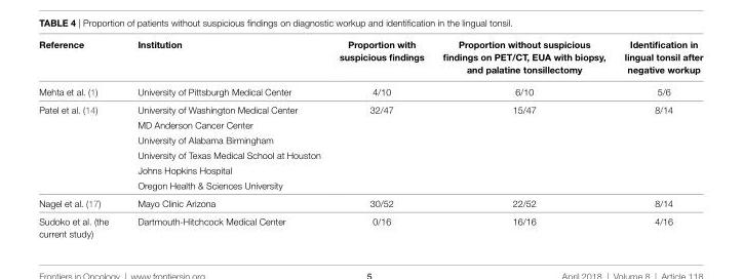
<table><thead><tr><td>reference</td><td>institution</td><td>Proportion with suspicious findings</td><td>Proportion without suspicious findings on PeT/cT, eUa with biopsy, and palatine tonsillectomy</td><td>identification in lingual tonsil after negative workup</td></tr></thead><tbody><tr><td>Mehta et al. (1)</td><td>University of Pittsburgh Medical Center</td><td>4/10</td><td>6/10</td><td>5/6</td></tr><tr><td rowspan="6">Patel et al. (14)</td><td>University of Washington Medical Center</td><td>32/47</td><td>15/47</td><td>8/14</td></tr><tr><td>MD Anderson Cancer Center</td><td></td><td></td><td></td></tr><tr><td>University of Alabama Birmingham</td><td></td><td></td><td></td></tr><tr><td>University of Texas Medical School at Houston</td><td></td><td></td><td></td></tr><tr><td>Johns Hopkins Hospital</td><td></td><td></td><td></td></tr><tr><td>Oregon Health &amp; Sciences University</td><td></td><td></td><td></td></tr><tr><td>Nagel et al. (17)</td><td>Mayo Clinic Arizona</td><td>30/52</td><td>22/52</td><td>8/14</td></tr><tr><td>Sudoko et al. (the current study)</td><td>Dartmouth-Hitchcock Medical Center</td><td>0/16</td><td>16/16</td><td>4/16</td></tr></tbody></table>